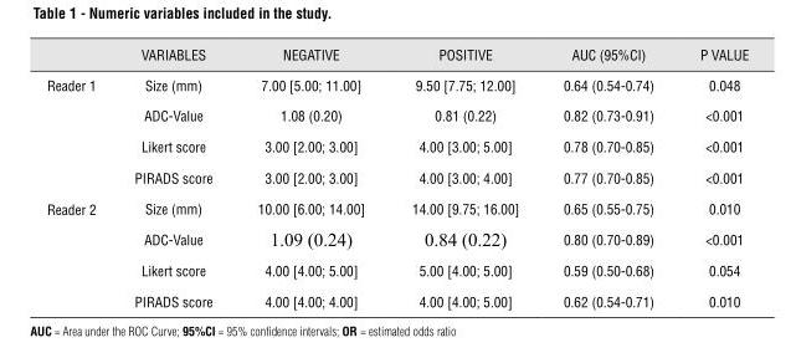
<table><thead><tr><td></td><td>VARIABLES</td><td>NEGATIVE</td><td>POSITIVE</td><td>AUC (95%CI)</td><td>P VALUE</td></tr></thead><tbody><tr><td rowspan="4">Reader 1</td><td>Size (mm)</td><td>7.00 [5.00; 11.00]</td><td>9.50 [7.75; 12.00]</td><td>0.64 (0.54-0.74)</td><td>0.048</td></tr><tr><td>ADC-Value</td><td>1.08 (0.20)</td><td>0.81 (0.22)</td><td>0.82 (0.73-0.91)</td><td>&lt;0.001</td></tr><tr><td>Likert score</td><td>3.00 [2.00; 3.00]</td><td>4.00 [3.00; 5.00]</td><td>0.78 (0.70-0.85)</td><td>&lt;0.001</td></tr><tr><td>PIRADS score</td><td>3.00 [2.00; 3.00]</td><td>4.00 [3.00; 4.00]</td><td>0.77 (0.70-0.85)</td><td>&lt;0.001</td></tr><tr><td rowspan="4">Reader 2</td><td>Size (mm)</td><td>10.00 [6.00; 14.00]</td><td>14.00 [9.75; 16.00]</td><td>0.65 (0.55-0.75)</td><td>0.010</td></tr><tr><td>ADC-Value</td><td>1.09 (0.24)</td><td>0.84 (0.22)</td><td>0.80 (0.70-0.89)</td><td>&lt;0.001</td></tr><tr><td>Likert score</td><td>4.00 [4.00; 5.00]</td><td>5.00 [4.00; 5.00]</td><td>0.59 (0.50-0.68)</td><td>0.054</td></tr><tr><td>PIRADS score</td><td>4.00 [4.00; 4.00]</td><td>4.00 [4.00; 5.00]</td><td>0.62 (0.54-0.71)</td><td>0.010</td></tr></tbody></table>